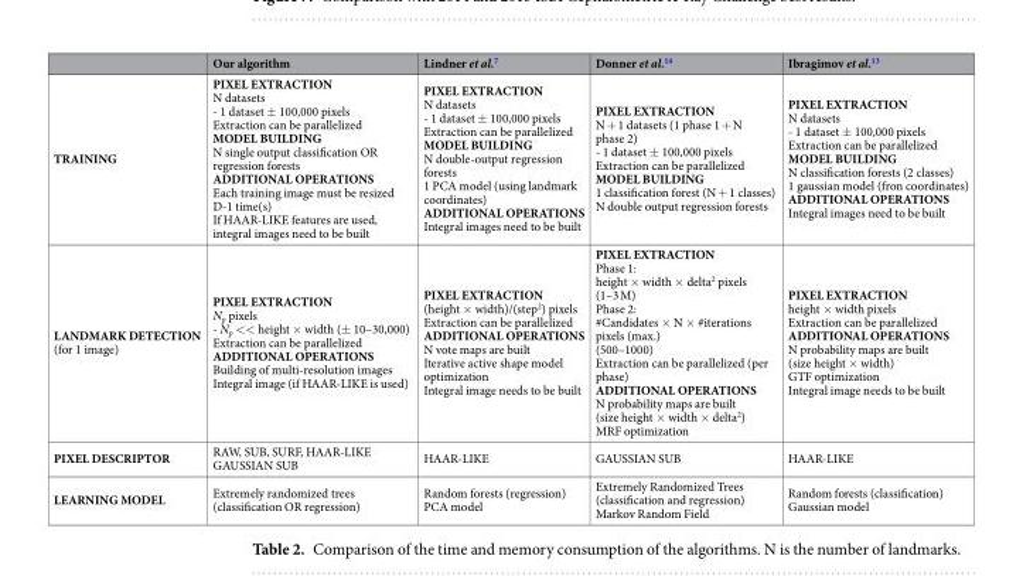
<table><thead><tr><td></td><td>Our algorithm</td><td>Lindner et al.<sup>7</sup></td><td>Donner et al.<sup>14</sup></td><td>Ibragimov et al.<sup>13</sup></td></tr></thead><tbody><tr><td>TRAINING</td><td>PIXEL EXTRACTION N datasets - 1 dataset ± 100,000 pixels Extraction can be parallelized MODEL BUILDING N single output classification OR regression forests ADDITIONAL OPERATIONS Each training image must be resized D-1 time(s) If HAAR-LIKE features are used, integral images need to be built</td><td>PIXEL EXTRACTION N datasets - 1 dataset ± 100,000 pixels Extraction can be parallelized MODEL BUILDING N double-output regression forests 1 PCA model (using landmark coordinates) ADDITIONAL OPERATIONS Integral images need to be built</td><td>PIXEL EXTRACTION N + 1 datasets (1 phase 1 + N phase 2) - 1 dataset ± 100,000 pixels Extraction can be parallelized MODEL BUILDING 1 classification forest (N + 1 classes) N double output regression forests</td><td>PIXEL EXTRACTION N datasets - 1 dataset ± 100,000 pixels Extraction can be parallelized MODEL BUILDING N classification forests (2 classes) 1 gaussian model (fron coordinates) ADDITIONAL OPERATIONS Integral images need to be built</td></tr><tr><td>LANDMARK DETECTION (for 1 image)</td><td>PIXEL EXTRACTION N<sub>p</sub> pixels - N<sub>p</sub> &lt;&lt; height × width (± 10–30,000) Extraction can be parallelized ADDITIONAL OPERATIONS Building of multi-resolution images Integral image (if HAAR-LIKE is used)</td><td>PIXEL EXTRACTION (height × width)/(step<sup>2</sup>) pixels Extraction can be parallelized ADDITIONAL OPERATIONS N vote maps are built Iterative active shape model optimization Integral image needs to be built</td><td>PIXEL EXTRACTION Phase 1: height × width × delta<sup>2</sup> pixels (1–3 M) Phase 2: #Candidates × N × #iterations pixels (max.) (500–1000) Extraction can be parallelized (per phase) ADDITIONAL OPERATIONS N probability maps are built (size height × width × delta<sup>2</sup>) MRF optimization</td><td>PIXEL EXTRACTION height × width pixels Extraction can be parallelized ADDITIONAL OPERATIONS N probability maps are built (size height × width) GTF optimization Integral image needs to be built</td></tr><tr><td>PIXEL DESCRIPTOR</td><td>RAW, SUB, SURF, HAAR-LIKE GAUSSIAN SUB</td><td>HAAR-LIKE</td><td>GAUSSIAN SUB</td><td>HAAR-LIKE</td></tr><tr><td>LEARNING MODEL</td><td>Extremely randomized trees (classification OR regression)</td><td>Random forests (regression) PCA model</td><td>Extremely Randomized Trees (classification and regression) Markov Random Field</td><td>Random forests (classification) Gaussian model</td></tr></tbody></table>